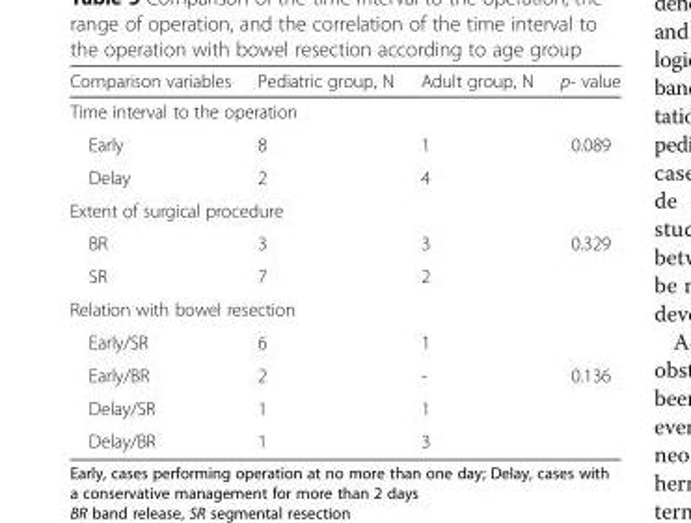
<table><thead><tr><td>Comparison variables</td><td>Pediatric group, N</td><td>Adult group, N</td><td>p- value</td></tr></thead><tbody><tr><td colspan="4">Time interval to the operation</td></tr><tr><td>Early</td><td>8</td><td>1</td><td>0.089</td></tr><tr><td>Delay</td><td>2</td><td>4</td><td></td></tr><tr><td colspan="4">Extent of surgical procedure</td></tr><tr><td>BR</td><td>3</td><td>3</td><td>0.329</td></tr><tr><td>SR</td><td>7</td><td>2</td><td></td></tr><tr><td colspan="4">Relation with bowel resection</td></tr><tr><td>Early/SR</td><td>6</td><td>1</td><td></td></tr><tr><td>Early/BR</td><td>2</td><td>-</td><td>0.136</td></tr><tr><td>Delay/SR</td><td>1</td><td>1</td><td></td></tr><tr><td>Delay/BR</td><td>1</td><td>3</td><td></td></tr></tbody></table>